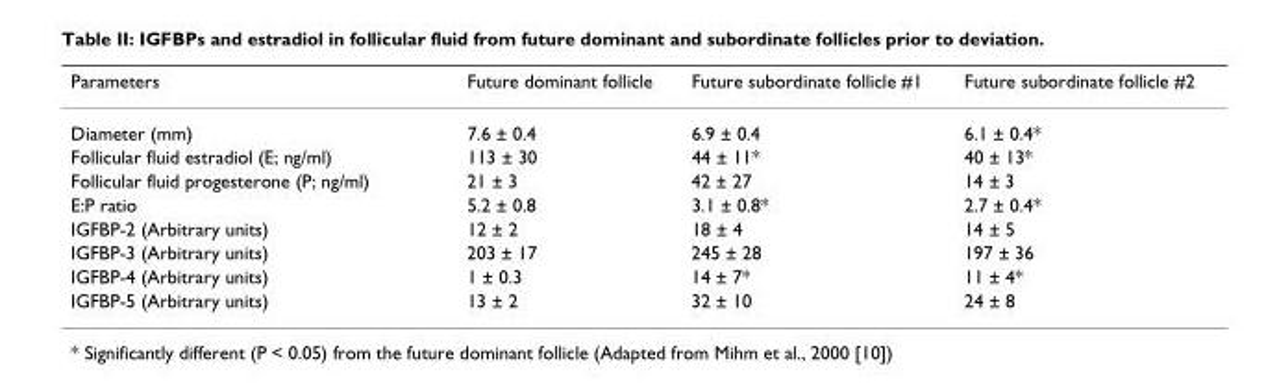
<table><thead><tr><td>Parameters</td><td>Future dominant follicle</td><td>Future subordinate follicle #1</td><td>Future subordinate follicle #2</td></tr></thead><tbody><tr><td>Diameter (mm)</td><td>7.6 ± 0.4</td><td>6.9 ± 0.4</td><td>6.1 ± 0.4*</td></tr><tr><td>Follicular fluid estradiol (E; ng/ml)</td><td>113 ± 30</td><td>44 ± 11*</td><td>40 ± 13*</td></tr><tr><td>Follicular fluid progesterone (P; ng/ml)</td><td>21 ± 3</td><td>42 ± 27</td><td>14 ± 3</td></tr><tr><td>E:P ratio</td><td>5.2 ± 0.8</td><td>3.1 ± 0.8*</td><td>2.7 ± 0.4*</td></tr><tr><td>IGFBP-2 (Arbitrary units)</td><td>12 ± 2</td><td>18 ± 4</td><td>14 ± 5</td></tr><tr><td>IGFBP-3 (Arbitrary units)</td><td>203 ± 17</td><td>245 ± 28</td><td>197 ± 36</td></tr><tr><td>IGFBP-4 (Arbitrary units)</td><td>1 ± 0.3</td><td>14 ± 7*</td><td>11 ± 4*</td></tr><tr><td>IGFBP-5 (Arbitrary units)</td><td>13 ± 2</td><td>32 ± 10</td><td>24 ± 8</td></tr></tbody></table>